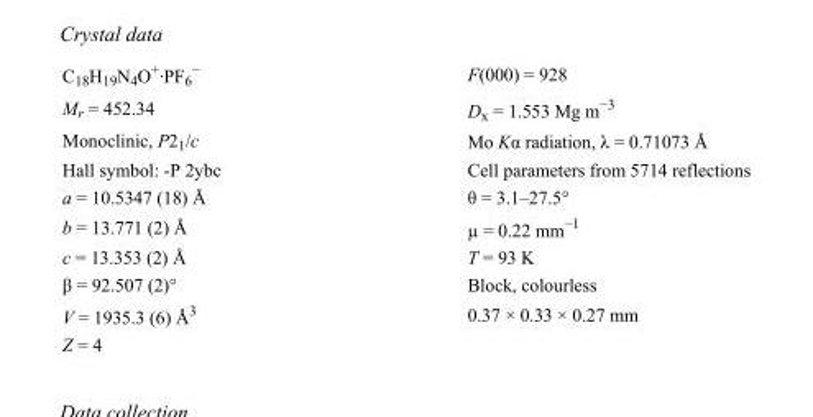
<table><tbody><tr><td>C<sub>18</sub>H<sub>19</sub>N<sub>4</sub>O<sup>+</sup>·PF<sub>6</sub> <sup>−</sup></td><td>F(000) = 928</td></tr><tr><td>M<sub>r</sub> = 452.34</td><td>D<sub>x</sub> = 1.553 Mg m<sup>−3</sup></td></tr><tr><td>Monoclinic, P2<sub>1</sub>/c</td><td>Mo Kα radiation, λ = 0.71073 Å</td></tr><tr><td>Hall symbol: -P 2ybc</td><td>Cell parameters from 5714 reflections</td></tr><tr><td>a = 10.5347 (18) Å</td><td>θ = 3.1–27.5°</td></tr><tr><td>b = 13.771 (2) Å</td><td>µ = 0.22 mm<sup>−1</sup></td></tr><tr><td>c = 13.353 (2) Å</td><td>T = 93 K</td></tr><tr><td>β = 92.507 (2)°</td><td>Block, colourless</td></tr><tr><td>V = 1935.3 (6) Å<sup>3</sup></td><td>0.37 × 0.33 × 0.27 mm</td></tr><tr><td>Z = 4</td><td></td></tr></tbody></table>